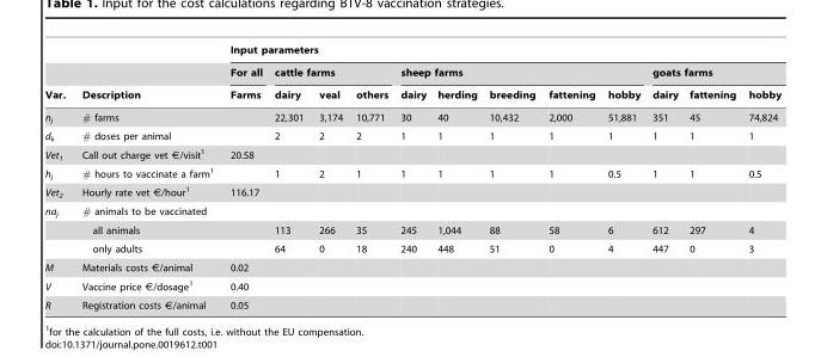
<table><thead><tr><td rowspan="3">Var.</td><td rowspan="3">Description</td><td colspan="12">Input parameters</td></tr><tr><td rowspan="2">For all Farms</td><td colspan="3">cattle farms</td><td colspan="5">sheep farms</td><td colspan="3">goats farms</td></tr><tr><td>dairy</td><td>veal</td><td>others</td><td>dairy</td><td>herding</td><td>breeding</td><td>fattening</td><td>hobby</td><td>dairy</td><td>fattening</td><td>hobby</td></tr></thead><tbody><tr><td>n<sub>j</sub></td><td># farms</td><td></td><td>22,301</td><td>3,174</td><td>10,771</td><td>30</td><td>40</td><td>10,432</td><td>2,000</td><td>51,881</td><td>351</td><td>45</td><td>74,824</td></tr><tr><td>d<sub>k</sub></td><td># doses per animal</td><td></td><td>2</td><td>2</td><td>2</td><td>1</td><td>1</td><td>1</td><td>1</td><td>1</td><td>1</td><td>1</td><td>1</td></tr><tr><td>Vet<sub>1</sub></td><td>Call out charge vet €/visit<sup>1</sup></td><td>20.58</td><td></td><td></td><td></td><td></td><td></td><td></td><td></td><td></td><td></td><td></td><td></td></tr><tr><td>h<sub>j</sub></td><td># hours to vaccinate a farm<sup>1</sup></td><td></td><td>1</td><td>2</td><td>1</td><td>1</td><td>1</td><td>1</td><td>1</td><td>0.5</td><td>1</td><td>1</td><td>0.5</td></tr><tr><td>Vet<sub>2</sub></td><td>Hourly rate vet €/hour<sup>1</sup></td><td>116.17</td><td></td><td></td><td></td><td></td><td></td><td></td><td></td><td></td><td></td><td></td><td></td></tr><tr><td rowspan="3">na<sub>j</sub></td><td># animals to be vaccinated</td><td></td><td></td><td></td><td></td><td></td><td></td><td></td><td></td><td></td><td></td><td></td><td></td></tr><tr><td>all animals</td><td></td><td>113</td><td>266</td><td>35</td><td>245</td><td>1,044</td><td>88</td><td>58</td><td>6</td><td>612</td><td>297</td><td>4</td></tr><tr><td>only adults</td><td></td><td>64</td><td>0</td><td>18</td><td>240</td><td>448</td><td>51</td><td>0</td><td>4</td><td>447</td><td>0</td><td>3</td></tr><tr><td>M</td><td>Materials costs €/animal</td><td>0.02</td><td></td><td></td><td></td><td></td><td></td><td></td><td></td><td></td><td></td><td></td><td></td></tr><tr><td>V</td><td>Vaccine price €/dosage<sup>1</sup></td><td>0.40</td><td></td><td></td><td></td><td></td><td></td><td></td><td></td><td></td><td></td><td></td><td></td></tr><tr><td>R</td><td>Registration costs €/animal</td><td>0.05</td><td></td><td></td><td></td><td></td><td></td><td></td><td></td><td></td><td></td><td></td><td></td></tr></tbody></table>